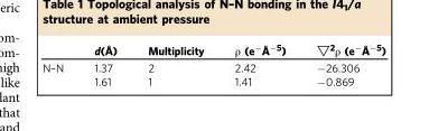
<table><thead><tr><td></td><td>d(Å)</td><td>Multiplicity</td><td>ρ (e<sup>−</sup>Å<sup>−5</sup>)</td><td>▽<sup>2</sup>ρ (e<sup>−</sup>Å<sup>−5</sup>)</td></tr></thead><tbody><tr><td rowspan="2">N–N</td><td>1.37</td><td>2</td><td>2.42</td><td>−26.306</td></tr><tr><td>1.61</td><td>1</td><td>1.41</td><td>−0.869</td></tr></tbody></table>